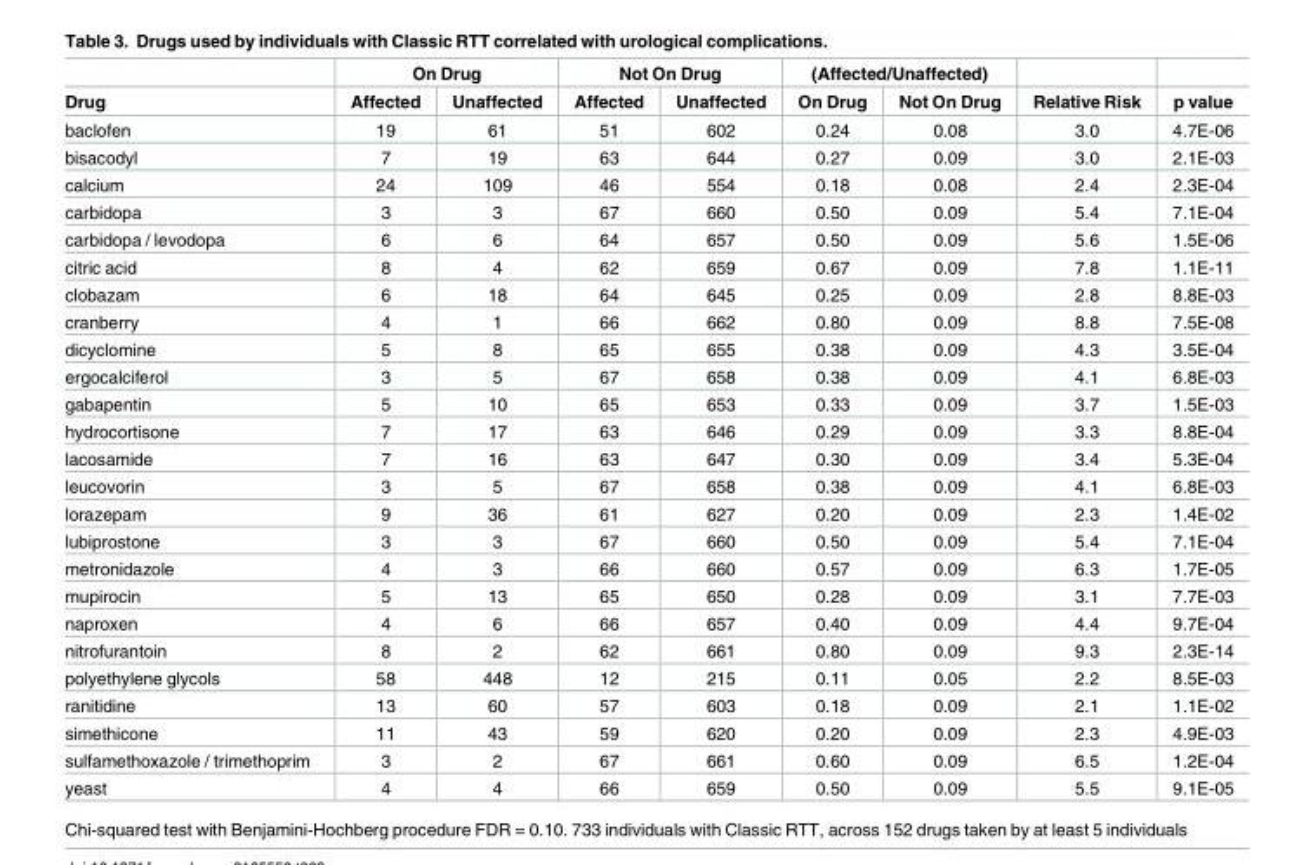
<table><thead><tr><td rowspan="2">Drug</td><td colspan="2">On Drug</td><td colspan="2">Not On Drug</td><td colspan="2">(Affected/Unaffected)</td><td rowspan="2">Relative Risk</td><td rowspan="2">p value</td></tr><tr><td>Affected</td><td>Unaffected</td><td>Affected</td><td>Unaffected</td><td>On Drug</td><td>Not On Drug</td></tr></thead><tbody><tr><td>baclofen</td><td>19</td><td>61</td><td>51</td><td>602</td><td>0.24</td><td>0.08</td><td>3.0</td><td>4.7E-06</td></tr><tr><td>bisacodyl</td><td>7</td><td>19</td><td>63</td><td>644</td><td>0.27</td><td>0.09</td><td>3.0</td><td>2.1E-03</td></tr><tr><td>calcium</td><td>24</td><td>109</td><td>46</td><td>554</td><td>0.18</td><td>0.08</td><td>2.4</td><td>2.3E-04</td></tr><tr><td>carbidopa</td><td>3</td><td>3</td><td>67</td><td>660</td><td>0.50</td><td>0.09</td><td>5.4</td><td>7.1E-04</td></tr><tr><td>carbidopa / levodopa</td><td>6</td><td>6</td><td>64</td><td>657</td><td>0.50</td><td>0.09</td><td>5.6</td><td>1.5E-06</td></tr><tr><td>citric acid</td><td>8</td><td>4</td><td>62</td><td>659</td><td>0.67</td><td>0.09</td><td>7.8</td><td>1.1E-11</td></tr><tr><td>clobazam</td><td>6</td><td>18</td><td>64</td><td>645</td><td>0.25</td><td>0.09</td><td>2.8</td><td>8.8E-03</td></tr><tr><td>cranberry</td><td>4</td><td>1</td><td>66</td><td>662</td><td>0.80</td><td>0.09</td><td>8.8</td><td>7.5E-08</td></tr><tr><td>dicyclomine</td><td>5</td><td>8</td><td>65</td><td>655</td><td>0.38</td><td>0.09</td><td>4.3</td><td>3.5E-04</td></tr><tr><td>ergocalciferol</td><td>3</td><td>5</td><td>67</td><td>658</td><td>0.38</td><td>0.09</td><td>4.1</td><td>6.8E-03</td></tr><tr><td>gabapentin</td><td>5</td><td>10</td><td>65</td><td>653</td><td>0.33</td><td>0.09</td><td>3.7</td><td>1.5E-03</td></tr><tr><td>hydrocortisone</td><td>7</td><td>17</td><td>63</td><td>646</td><td>0.29</td><td>0.09</td><td>3.3</td><td>8.8E-04</td></tr><tr><td>lacosamide</td><td>7</td><td>16</td><td>63</td><td>647</td><td>0.30</td><td>0.09</td><td>3.4</td><td>5.3E-04</td></tr><tr><td>leucovorin</td><td>3</td><td>5</td><td>67</td><td>658</td><td>0.38</td><td>0.09</td><td>4.1</td><td>6.8E-03</td></tr><tr><td>lorazepam</td><td>9</td><td>36</td><td>61</td><td>627</td><td>0.20</td><td>0.09</td><td>2.3</td><td>1.4E-02</td></tr><tr><td>lubiprostone</td><td>3</td><td>3</td><td>67</td><td>660</td><td>0.50</td><td>0.09</td><td>5.4</td><td>7.1E-04</td></tr><tr><td>metronidazole</td><td>4</td><td>3</td><td>66</td><td>660</td><td>0.57</td><td>0.09</td><td>6.3</td><td>1.7E-05</td></tr><tr><td>mupirocin</td><td>5</td><td>13</td><td>65</td><td>650</td><td>0.28</td><td>0.09</td><td>3.1</td><td>7.7E-03</td></tr><tr><td>naproxen</td><td>4</td><td>6</td><td>66</td><td>657</td><td>0.40</td><td>0.09</td><td>4.4</td><td>9.7E-04</td></tr><tr><td>nitrofurantoin</td><td>8</td><td>2</td><td>62</td><td>661</td><td>0.80</td><td>0.09</td><td>9.3</td><td>2.3E-14</td></tr><tr><td>polyethylene glycols</td><td>58</td><td>448</td><td>12</td><td>215</td><td>0.11</td><td>0.05</td><td>2.2</td><td>8.5E-03</td></tr><tr><td>ranitidine</td><td>13</td><td>60</td><td>57</td><td>603</td><td>0.18</td><td>0.09</td><td>2.1</td><td>1.1E-02</td></tr><tr><td>simethicone</td><td>11</td><td>43</td><td>59</td><td>620</td><td>0.20</td><td>0.09</td><td>2.3</td><td>4.9E-03</td></tr><tr><td>sulfamethoxazole / trimethoprim</td><td>3</td><td>2</td><td>67</td><td>661</td><td>0.60</td><td>0.09</td><td>6.5</td><td>1.2E-04</td></tr><tr><td>yeast</td><td>4</td><td>4</td><td>66</td><td>659</td><td>0.50</td><td>0.09</td><td>5.5</td><td>9.1E-05</td></tr></tbody></table>